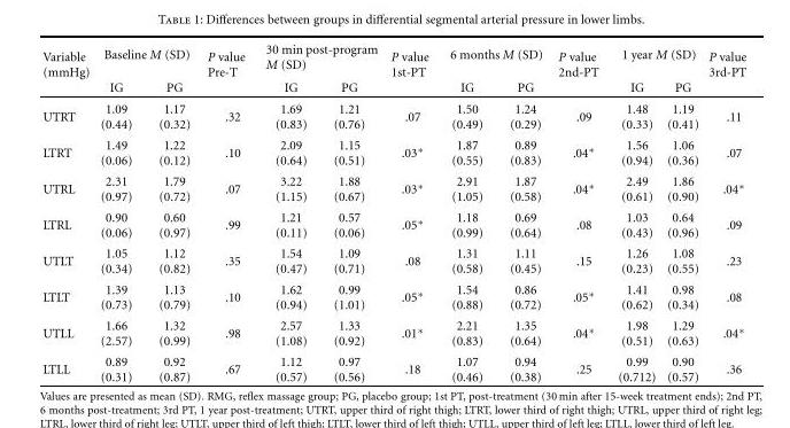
<table><thead><tr><td rowspan="2">Variable (mmHg)</td><td colspan="2">Baseline M (SD)</td><td rowspan="2">P value Pre-T</td><td colspan="2">30 min post-program M (SD)</td><td rowspan="2">P value 1st-PT</td><td colspan="2">6 months M (SD)</td><td rowspan="2">P value 2nd-PT</td><td colspan="2">1 year M (SD)</td><td rowspan="2">P value 3rd-PT</td></tr><tr><td>IG</td><td>PG</td><td>IG</td><td>PG</td><td>IG</td><td>PG</td><td>IG</td><td>PG</td></tr></thead><tbody><tr><td>UTRT</td><td>1.09 (0.44)</td><td>1.17 (0.32)</td><td>.32</td><td>1.69 (0.83)</td><td>1.21 (0.76)</td><td>.07</td><td>1.50 (0.49)</td><td>1.24 (0.29)</td><td>.09</td><td>1.48 (0.33)</td><td>1.19 (0.41)</td><td>.11</td></tr><tr><td>LTRT</td><td>1.49 (0.06)</td><td>1.22 (0.12)</td><td>.10</td><td>2.09 (0.64)</td><td>1.15 (0.51)</td><td>.03∗</td><td>1.87 (0.55)</td><td>0.89 (0.83)</td><td>.04∗</td><td>1.56 (0.94)</td><td>1.06 (0.36)</td><td>.07</td></tr><tr><td>UTRL</td><td>2.31 (0.97)</td><td>1.79 (0.72)</td><td>.07</td><td>3.22 (1.15)</td><td>1.88 (0.67)</td><td>.03∗</td><td>2.91 (1.05)</td><td>1.87 (0.58)</td><td>.04∗</td><td>2.49 (0.61)</td><td>1.86 (0.90)</td><td>.04∗</td></tr><tr><td>LTRL</td><td>0.90 (0.06)</td><td>0.60 (0.97)</td><td>.99</td><td>1.21 (0.11)</td><td>0.57 (0.06)</td><td>.05∗</td><td>1.18 (0.99)</td><td>0.69 (0.64)</td><td>.08</td><td>1.03 (0.43)</td><td>0.64 (0.96)</td><td>.09</td></tr><tr><td>UTLT</td><td>1.05 (0.34)</td><td>1.12 (0.82)</td><td>.35</td><td>1.54 (0.47)</td><td>1.09 (0.71)</td><td>.08</td><td>1.31 (0.58)</td><td>1.11 (0.45)</td><td>.15</td><td>1.26 (0.23)</td><td>1.08 (0.55)</td><td>.23</td></tr><tr><td>LTLT</td><td>1.39 (0.73)</td><td>1.13 (0.79)</td><td>.10</td><td>1.62 (0.94)</td><td>0.99 (1.01)</td><td>.05∗</td><td>1.54 (0.88)</td><td>0.86 (0.72)</td><td>.05∗</td><td>1.41 (0.62)</td><td>0.98 (0.34)</td><td>.08</td></tr><tr><td>UTLL</td><td>1.66 (2.57)</td><td>1.32 (0.99)</td><td>.98</td><td>2.57 (1.08)</td><td>1.33 (0.92)</td><td>.01∗</td><td>2.21 (0.83)</td><td>1.35 (0.64)</td><td>.04∗</td><td>1.98 (0.51)</td><td>1.29 (0.63)</td><td>.04∗</td></tr><tr><td>LTLL</td><td>0.89 (0.31)</td><td>0.92 (0.87)</td><td>.67</td><td>1.12 (0.57)</td><td>0.97 (0.56)</td><td>.18</td><td>1.07 (0.46)</td><td>0.94 (0.38)</td><td>.25</td><td>0.99 (0.712)</td><td>0.90 (0.57)</td><td>.36</td></tr></tbody></table>